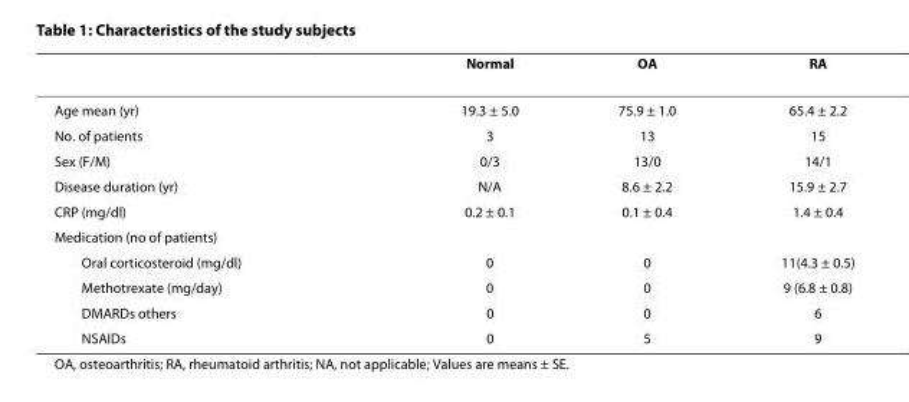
<table><thead><tr><td></td><td>Normal</td><td>OA</td><td>RA</td></tr></thead><tbody><tr><td>Age mean (yr)</td><td>19.3 ± 5.0</td><td>75.9 ± 1.0</td><td>65.4 ± 2.2</td></tr><tr><td>No. of patients</td><td>3</td><td>13</td><td>15</td></tr><tr><td>Sex (F/M)</td><td>0/3</td><td>13/0</td><td>14/1</td></tr><tr><td>Disease duration (yr)</td><td>N/A</td><td>8.6 ± 2.2</td><td>15.9 ± 2.7</td></tr><tr><td>CRP (mg/dl)</td><td>0.2 ± 0.1</td><td>0.1 ± 0.4</td><td>1.4 ± 0.4</td></tr><tr><td colspan="4">Medication (no of patients)</td></tr><tr><td>Oral corticosteroid (mg/dl)</td><td>0</td><td>0</td><td>11(4.3 ± 0.5)</td></tr><tr><td>Methotrexate (mg/day)</td><td>0</td><td>0</td><td>9 (6.8 ± 0.8)</td></tr><tr><td>DMARDs others</td><td>0</td><td>0</td><td>6</td></tr><tr><td>NSAIDs</td><td>0</td><td>5</td><td>9</td></tr></tbody></table>